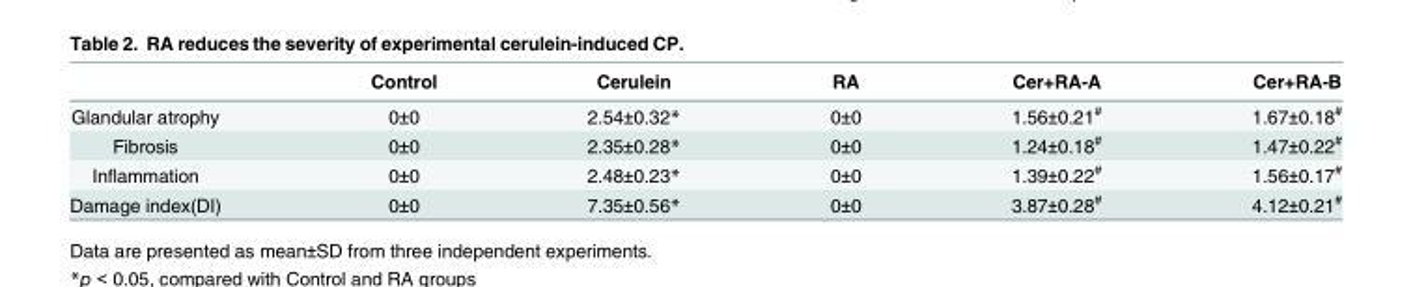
<table><thead><tr><td></td><td>Control</td><td>Cerulein</td><td>RA</td><td>Cer+RA-A</td><td>Cer+RA-B</td></tr></thead><tbody><tr><td>Glandular atrophy</td><td>0±0</td><td>2.54±0.32*</td><td>0±0</td><td>1.56±0.21<sup>#</sup></td><td>1.67±0.18<sup>#</sup></td></tr><tr><td>Fibrosis</td><td>0±0</td><td>2.35±0.28*</td><td>0±0</td><td>1.24±0.18<sup>#</sup></td><td>1.47±0.22<sup>#</sup></td></tr><tr><td>Inflammation</td><td>0±0</td><td>2.48±0.23*</td><td>0±0</td><td>1.39±0.22<sup>#</sup></td><td>1.56±0.17<sup>#</sup></td></tr><tr><td>Damage index(DI)</td><td>0±0</td><td>7.35±0.56*</td><td>0±0</td><td>3.87±0.28<sup>#</sup></td><td>4.12±0.21<sup>#</sup></td></tr></tbody></table>